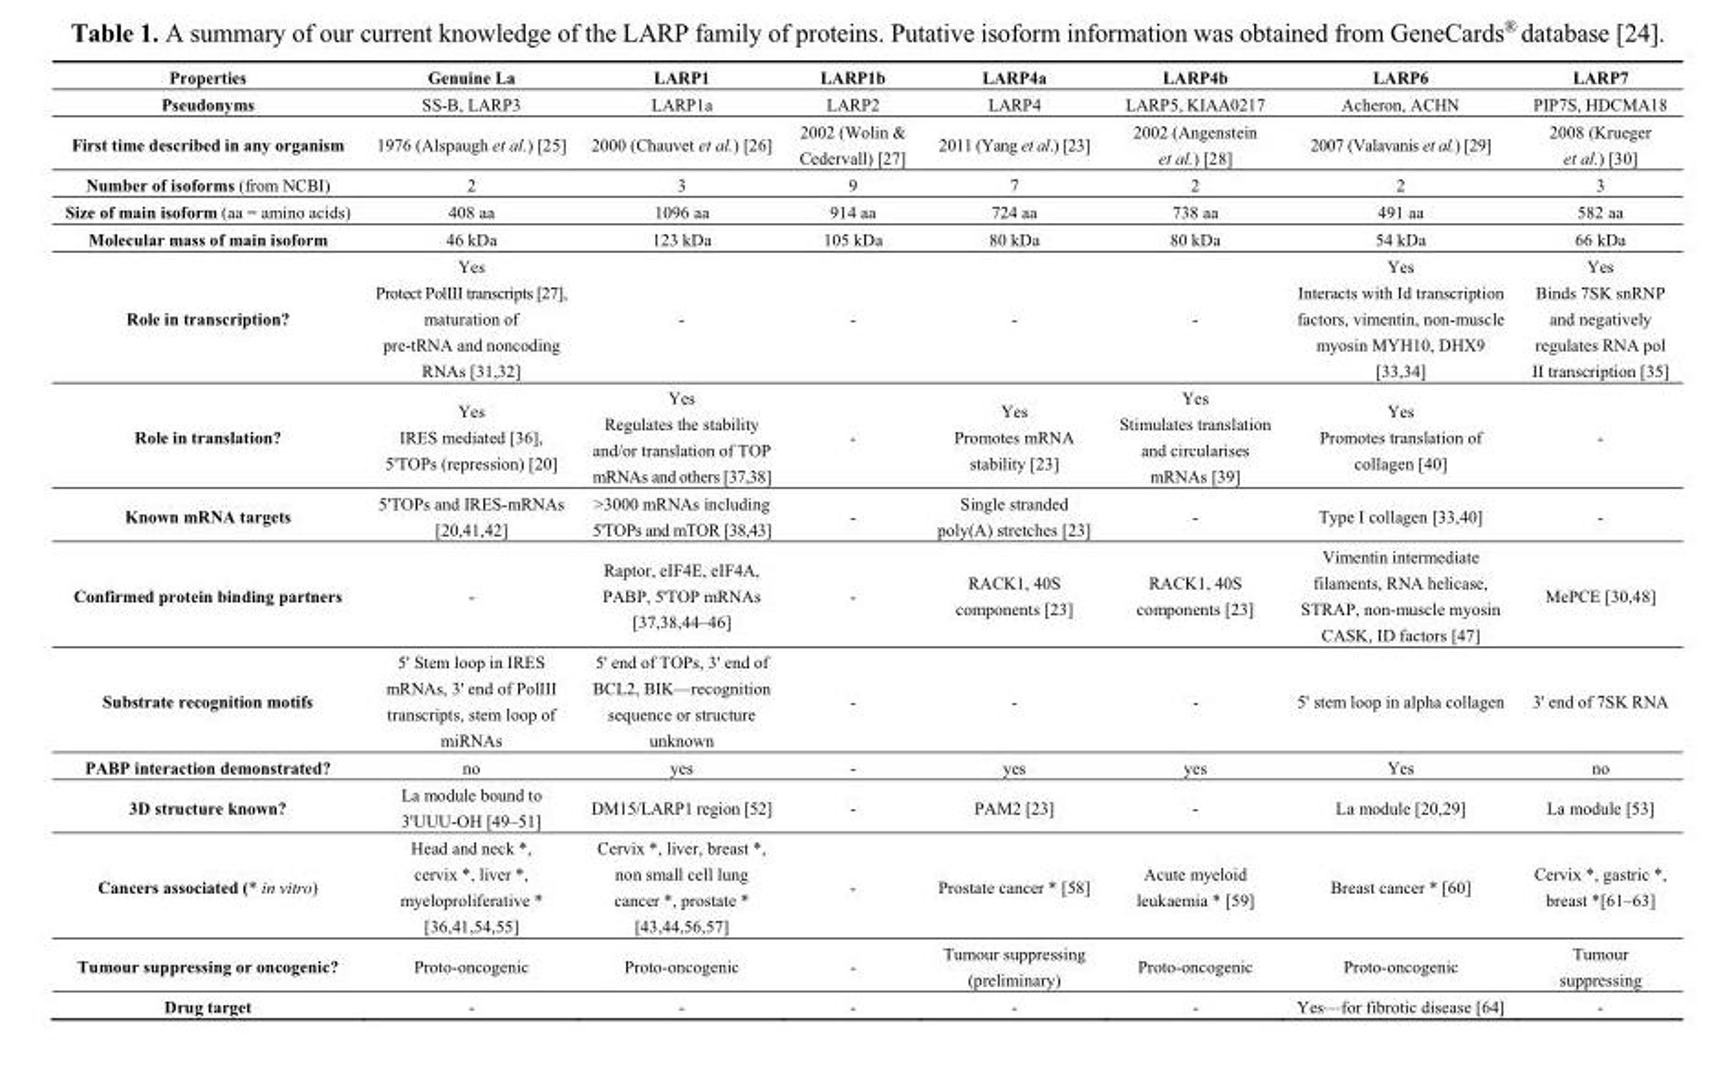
<table><thead><tr><td>Properties</td><td>Genuine La</td><td>LARP1</td><td>LARP1b</td><td>LARP4a</td><td>LARP4b</td><td>LARP6</td><td>LARP7</td></tr></thead><tbody><tr><td>Pseudonyms</td><td>SS-B, LARP3</td><td>LARP1a</td><td>LARP2</td><td>LARP4</td><td>LARP5, KIAA0217</td><td>Acheron, ACHN</td><td>PIP7S, HDCMA18</td></tr><tr><td>First time described in any organism</td><td>1976 (Alspaugh et al.) [25]</td><td>2000 (Chauvet et al.) [26]</td><td>2002 (Wolin &amp; Cedervall) [27]</td><td>2011 (Yang et al.) [23]</td><td>2002 (Angenstein et al.) [28]</td><td>2007 (Valavanis et al.) [29]</td><td>2008 (Krueger et al.) [30]</td></tr><tr><td>Number of isoforms (from NCBI)</td><td>2</td><td>3</td><td>9</td><td>7</td><td>2</td><td>2</td><td>3</td></tr><tr><td>Size of main isoform (aa = amino acids)</td><td>408 aa</td><td>1096 aa</td><td>914 aa</td><td>724 aa</td><td>738 aa</td><td>491 aa</td><td>582 aa</td></tr><tr><td>Molecular mass of main isoform</td><td>46 kDa</td><td>123 kDa</td><td>105 kDa</td><td>80 kDa</td><td>80 kDa</td><td>54 kDa</td><td>66 kDa</td></tr><tr><td>Role in transcription?</td><td>Yes Protect PolIII transcripts [27], maturation of pre-tRNA and noncoding RNAs [31,32]</td><td>-</td><td>-</td><td>-</td><td>-</td><td>Yes Interacts with Id transcription factors, vimentin, non-muscle myosin MYH10, DHX9 [33,34]</td><td>Yes Binds 7SK snRNP and negatively regulates RNA pol II transcription [35]</td></tr><tr><td>Role in translation?</td><td>Yes IRES mediated [36], 5&#x27;TOPs (repression) [20]</td><td>Yes Regulates the stability and/or translation of TOP mRNAs and others [37,38]</td><td>-</td><td>Yes Promotes mRNA stability [23]</td><td>Yes Stimulates translation and circularises mRNAs [39]</td><td>Yes Promotes translation of collagen [40]</td><td>-</td></tr><tr><td>Known mRNA targets</td><td>5&#x27;TOPs and IRES-mRNAs [20,41,42]</td><td>&gt;3000 mRNAs including 5&#x27;TOPs and mTOR [38,43]</td><td>-</td><td>Single stranded poly(A) stretches [23]</td><td>-</td><td>Type I collagen [33,40]</td><td>-</td></tr><tr><td>Confirmed protein binding partners</td><td>-</td><td>Raptor, eIF4E, eIF4A, PABP, 5&#x27;TOP mRNAs [37,38,44–46]</td><td>-</td><td>RACK1, 40S components [23]</td><td>RACK1, 40S components [23]</td><td>Vimentin intermediate filaments, RNA helicase, STRAP, non-muscle myosin CASK, ID factors [47]</td><td>MePCE [30,48]</td></tr><tr><td>Substrate recognition motifs</td><td>5&#x27; Stem loop in IRES mRNAs, 3&#x27; end of PolIII transcripts, stem loop of miRNAs</td><td>5&#x27; end of TOPs, 3&#x27; end of BCL2, BIK—recognition sequence or structure unknown</td><td>-</td><td>-</td><td>-</td><td>5&#x27; stem loop in alpha collagen</td><td>3&#x27; end of 7SK RNA</td></tr><tr><td>PABP interaction demonstrated?</td><td>no</td><td>yes</td><td>-</td><td>yes</td><td>yes</td><td>Yes</td><td>no</td></tr><tr><td>3D structure known?</td><td>La module bound to 3&#x27;UUU-OH [49–51]</td><td>DM15/LARP1 region [52]</td><td>-</td><td>PAM2 [23]</td><td>-</td><td>La module [20,29]</td><td>La module [53]</td></tr><tr><td>Cancers associated (* in vitro)</td><td>Head and neck *, cervix *, liver *, myeloproliferative * [36,41,54,55]</td><td>Cervix *, liver, breast *, non small cell lung cancer *, prostate * [43,44,56,57]</td><td>-</td><td>Prostate cancer * [58]</td><td>Acute myeloid leukaemia * [59]</td><td>Breast cancer * [60]</td><td>Cervix *, gastric *, breast *[61–63]</td></tr><tr><td>Tumour suppressing or oncogenic?</td><td>Proto-oncogenic</td><td>Proto-oncogenic</td><td>-</td><td>Tumour suppressing (preliminary)</td><td>Proto-oncogenic</td><td>Proto-oncogenic</td><td>Tumour suppressing</td></tr><tr><td>Drug target</td><td>-</td><td>-</td><td>-</td><td>-</td><td>-</td><td>Yes—for fibrotic disease [64]</td><td>-</td></tr></tbody></table>